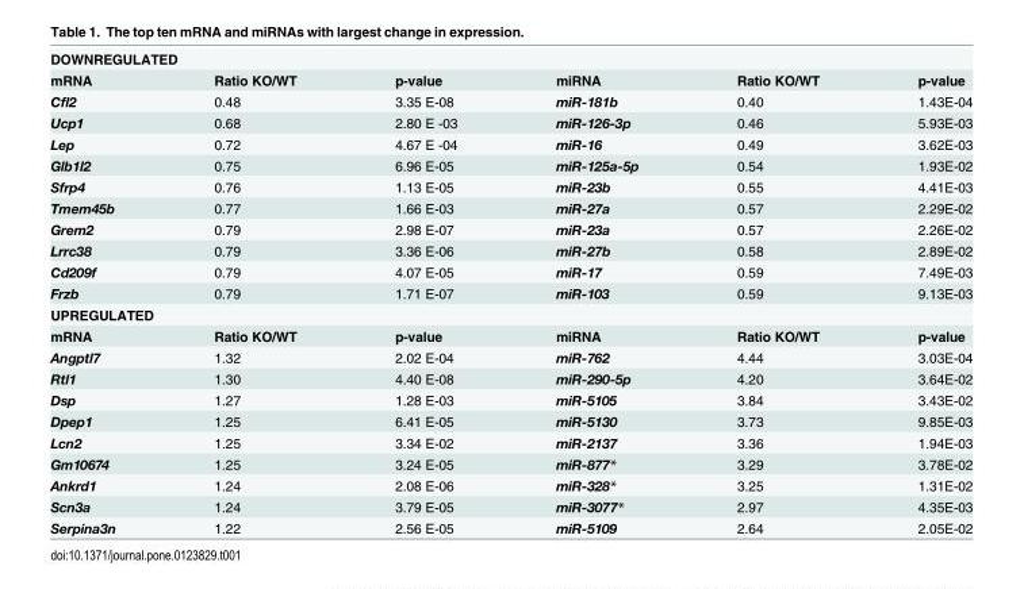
<table><tbody><tr><td colspan="6">DOWNREGULATED</td></tr><tr><td>mRNA</td><td>Ratio KO/WT</td><td>p-value</td><td>miRNA</td><td>Ratio KO/WT</td><td>p-value</td></tr><tr><td>Cfl2</td><td>0.48</td><td>3.35 E-08</td><td>miR-181b</td><td>0.40</td><td>1.43E-04</td></tr><tr><td>Ucp1</td><td>0.68</td><td>2.80 E -03</td><td>miR-126-3p</td><td>0.46</td><td>5.93E-03</td></tr><tr><td>Lep</td><td>0.72</td><td>4.67 E -04</td><td>miR-16</td><td>0.49</td><td>3.62E-03</td></tr><tr><td>Glb1l2</td><td>0.75</td><td>6.96 E-05</td><td>miR-125a-5p</td><td>0.54</td><td>1.93E-02</td></tr><tr><td>Sfrp4</td><td>0.76</td><td>1.13 E-05</td><td>miR-23b</td><td>0.55</td><td>4.41E-03</td></tr><tr><td>Tmem45b</td><td>0.77</td><td>1.66 E-03</td><td>miR-27a</td><td>0.57</td><td>2.29E-02</td></tr><tr><td>Grem2</td><td>0.79</td><td>2.98 E-07</td><td>miR-23a</td><td>0.57</td><td>2.26E-02</td></tr><tr><td>Lrrc38</td><td>0.79</td><td>3.36 E-06</td><td>miR-27b</td><td>0.58</td><td>2.89E-02</td></tr><tr><td>Cd209f</td><td>0.79</td><td>4.07 E-05</td><td>miR-17</td><td>0.59</td><td>7.49E-03</td></tr><tr><td>Frzb</td><td>0.79</td><td>1.71 E-07</td><td>miR-103</td><td>0.59</td><td>9.13E-03</td></tr><tr><td colspan="6">UPREGULATED</td></tr><tr><td>mRNA</td><td>Ratio KO/WT</td><td>p-value</td><td>miRNA</td><td>Ratio KO/WT</td><td>p-value</td></tr><tr><td>Angptl7</td><td>1.32</td><td>2.02 E-04</td><td>miR-762</td><td>4.44</td><td>3.03E-04</td></tr><tr><td>Rtl1</td><td>1.30</td><td>4.40 E-08</td><td>miR-290-5p</td><td>4.20</td><td>3.64E-02</td></tr><tr><td>Dsp</td><td>1.27</td><td>1.28 E-03</td><td>miR-5105</td><td>3.84</td><td>3.43E-02</td></tr><tr><td>Dpep1</td><td>1.25</td><td>6.41 E-05</td><td>miR-5130</td><td>3.73</td><td>9.85E-03</td></tr><tr><td>Lcn2</td><td>1.25</td><td>3.34 E-02</td><td>miR-2137</td><td>3.36</td><td>1.94E-03</td></tr><tr><td>Gm10674</td><td>1.25</td><td>3.24 E-05</td><td>miR-877*</td><td>3.29</td><td>3.78E-02</td></tr><tr><td>Ankrd1</td><td>1.24</td><td>2.08 E-06</td><td>miR-328*</td><td>3.25</td><td>1.31E-02</td></tr><tr><td>Scn3a</td><td>1.24</td><td>3.79 E-05</td><td>miR-3077*</td><td>2.97</td><td>4.35E-03</td></tr><tr><td>Serpina3n</td><td>1.22</td><td>2.56 E-05</td><td>miR-5109</td><td>2.64</td><td>2.05E-02</td></tr></tbody></table>